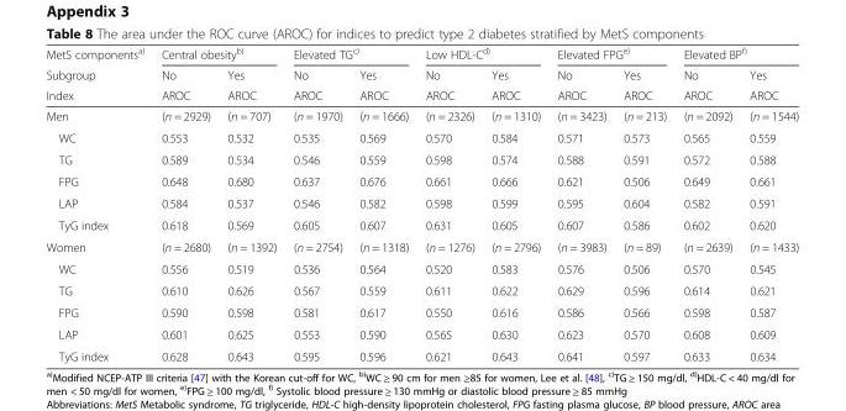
<table><thead><tr><td rowspan="3">MetS components<sup>a)</sup> Subgroup Index</td><td colspan="2">Central obesity<sup>b)</sup></td><td colspan="2">Elevated TG<sup>c)</sup></td><td colspan="2">Low HDL-C<sup>d)</sup></td><td colspan="2">Elevated FPG<sup>e)</sup></td><td colspan="2">Elevated BP<sup>f)</sup></td></tr><tr><td rowspan="2">No AROC</td><td rowspan="2">Yes AROC</td><td rowspan="2">No AROC</td><td rowspan="2">Yes AROC</td><td rowspan="2">No AROC</td><td rowspan="2">Yes AROC</td><td rowspan="2">No AROC</td><td rowspan="2">Yes AROC</td><td rowspan="2">No AROC</td><td rowspan="2">Yes AROC</td></tr><tr></tr></thead><tbody><tr><td>Men</td><td>(n = 2929)</td><td>(n = 707)</td><td>(n = 1970)</td><td>(n = 1666)</td><td>(n = 2326)</td><td>(n = 1310)</td><td>(n = 3423)</td><td>(n = 213)</td><td>(n = 2092)</td><td>(n = 1544)</td></tr><tr><td>WC</td><td>0.553</td><td>0.532</td><td>0.535</td><td>0.569</td><td>0.570</td><td>0.584</td><td>0.571</td><td>0.573</td><td>0.565</td><td>0.559</td></tr><tr><td>TG</td><td>0.589</td><td>0.534</td><td>0.546</td><td>0.559</td><td>0.598</td><td>0.574</td><td>0.588</td><td>0.591</td><td>0.572</td><td>0.588</td></tr><tr><td>FPG</td><td>0.648</td><td>0.680</td><td>0.637</td><td>0.676</td><td>0.661</td><td>0.666</td><td>0.621</td><td>0.506</td><td>0.649</td><td>0.661</td></tr><tr><td>LAP</td><td>0.584</td><td>0.537</td><td>0.546</td><td>0.582</td><td>0.598</td><td>0.599</td><td>0.595</td><td>0.604</td><td>0.582</td><td>0.591</td></tr><tr><td>TyG index</td><td>0.618</td><td>0.569</td><td>0.605</td><td>0.607</td><td>0.631</td><td>0.605</td><td>0.607</td><td>0.586</td><td>0.602</td><td>0.620</td></tr><tr><td>Women</td><td>(n = 2680)</td><td>(n = 1392)</td><td>(n = 2754)</td><td>(n = 1318)</td><td>(n = 1276)</td><td>(n = 2796)</td><td>(n = 3983)</td><td>(n = 89)</td><td>(n = 2639)</td><td>(n = 1433)</td></tr><tr><td>WC</td><td>0.556</td><td>0.519</td><td>0.536</td><td>0.564</td><td>0.520</td><td>0.583</td><td>0.576</td><td>0.506</td><td>0.570</td><td>0.545</td></tr><tr><td>TG</td><td>0.610</td><td>0.626</td><td>0.567</td><td>0.559</td><td>0.611</td><td>0.622</td><td>0.629</td><td>0.596</td><td>0.614</td><td>0.621</td></tr><tr><td>FPG</td><td>0.590</td><td>0.598</td><td>0.581</td><td>0.617</td><td>0.550</td><td>0.616</td><td>0.586</td><td>0.566</td><td>0.598</td><td>0.587</td></tr><tr><td>LAP</td><td>0.601</td><td>0.625</td><td>0.553</td><td>0.590</td><td>0.565</td><td>0.630</td><td>0.623</td><td>0.570</td><td>0.608</td><td>0.609</td></tr><tr><td>TyG index</td><td>0.628</td><td>0.643</td><td>0.595</td><td>0.596</td><td>0.621</td><td>0.643</td><td>0.641</td><td>0.597</td><td>0.633</td><td>0.634</td></tr></tbody></table>